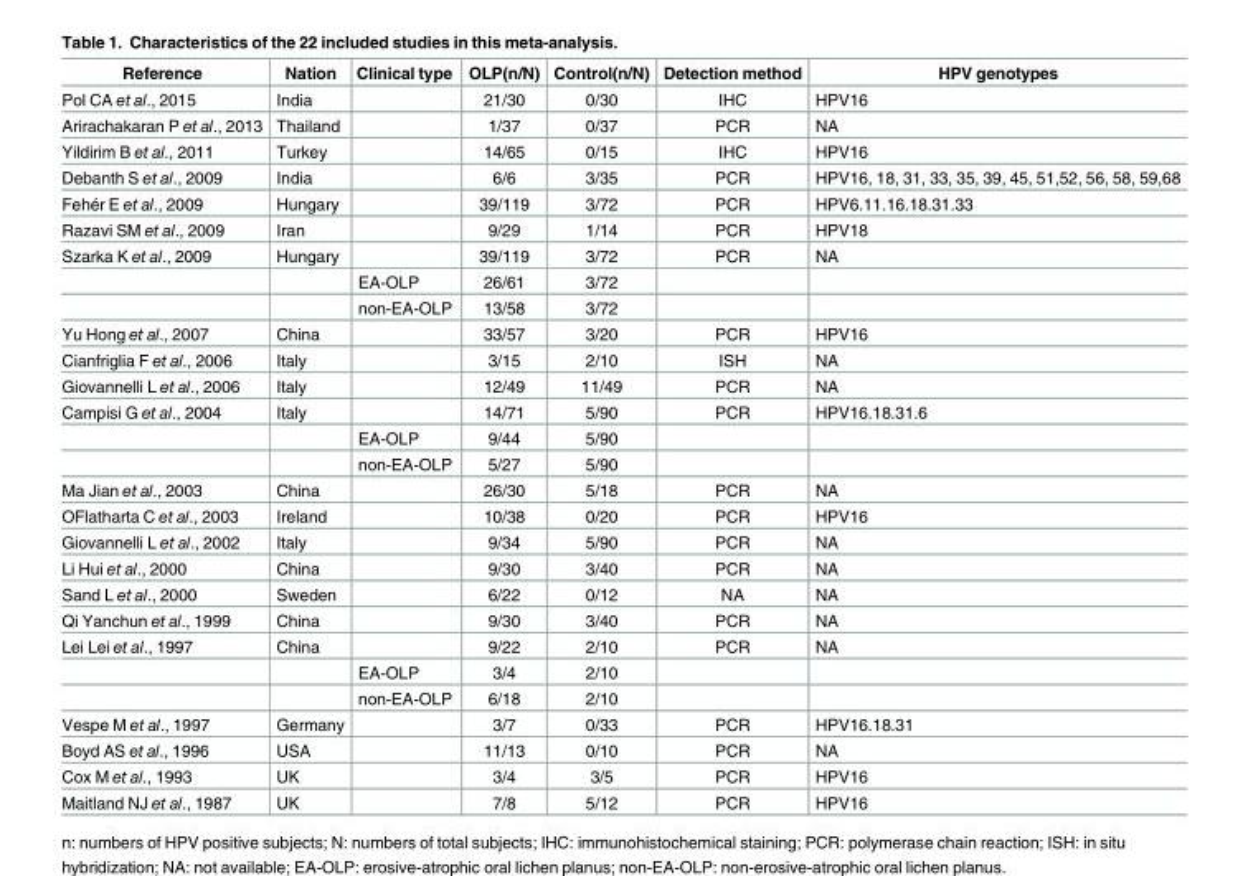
<table><thead><tr><td>Reference</td><td>Nation</td><td>Clinical type</td><td>OLP(n/N)</td><td>Control(n/N)</td><td>Detection method</td><td>HPV genotypes</td></tr></thead><tbody><tr><td>Pol CA et al., 2015</td><td>India</td><td></td><td>21/30</td><td>0/30</td><td>IHC</td><td>HPV16</td></tr><tr><td>Arirachakaran P et al., 2013</td><td>Thailand</td><td></td><td>1/37</td><td>0/37</td><td>PCR</td><td>NA</td></tr><tr><td>Yildirim B et al., 2011</td><td>Turkey</td><td></td><td>14/65</td><td>0/15</td><td>IHC</td><td>HPV16</td></tr><tr><td>Debanth S et al., 2009</td><td>India</td><td></td><td>6/6</td><td>3/35</td><td>PCR</td><td>HPV16, 18, 31, 33, 35, 39, 45, 51,52, 56, 58, 59,68</td></tr><tr><td>Fehér E et al., 2009</td><td>Hungary</td><td></td><td>39/119</td><td>3/72</td><td>PCR</td><td>HPV6.11.16.18.31.33</td></tr><tr><td>Razavi SM et al., 2009</td><td>Iran</td><td></td><td>9/29</td><td>1/14</td><td>PCR</td><td>HPV18</td></tr><tr><td rowspan="3">Szarka K et al., 2009</td><td>Hungary</td><td></td><td>39/119</td><td>3/72</td><td>PCR</td><td>NA</td></tr><tr><td></td><td>EA-OLP</td><td>26/61</td><td>3/72</td><td></td><td></td></tr><tr><td></td><td>non-EA-OLP</td><td>13/58</td><td>3/72</td><td></td><td></td></tr><tr><td>Yu Hong et al., 2007</td><td>China</td><td></td><td>33/57</td><td>3/20</td><td>PCR</td><td>HPV16</td></tr><tr><td>Cianfriglia F et al., 2006</td><td>Italy</td><td></td><td>3/15</td><td>2/10</td><td>ISH</td><td>NA</td></tr><tr><td>Giovannelli L et al., 2006</td><td>Italy</td><td></td><td>12/49</td><td>11/49</td><td>PCR</td><td>NA</td></tr><tr><td rowspan="3">Campisi G et al., 2004</td><td>Italy</td><td></td><td>14/71</td><td>5/90</td><td>PCR</td><td>HPV16.18.31.6</td></tr><tr><td></td><td>EA-OLP</td><td>9/44</td><td>5/90</td><td></td><td></td></tr><tr><td></td><td>non-EA-OLP</td><td>5/27</td><td>5/90</td><td></td><td></td></tr><tr><td>Ma Jian et al., 2003</td><td>China</td><td></td><td>26/30</td><td>5/18</td><td>PCR</td><td>NA</td></tr><tr><td>OFlatharta C et al., 2003</td><td>Ireland</td><td></td><td>10/38</td><td>0/20</td><td>PCR</td><td>HPV16</td></tr><tr><td>Giovannelli L et al., 2002</td><td>Italy</td><td></td><td>9/34</td><td>5/90</td><td>PCR</td><td>NA</td></tr><tr><td>Li Hui et al., 2000</td><td>China</td><td></td><td>9/30</td><td>3/40</td><td>PCR</td><td>NA</td></tr><tr><td>Sand L et al., 2000</td><td>Sweden</td><td></td><td>6/22</td><td>0/12</td><td>NA</td><td>NA</td></tr><tr><td>Qi Yanchun et al., 1999</td><td>China</td><td></td><td>9/30</td><td>3/40</td><td>PCR</td><td>NA</td></tr><tr><td rowspan="3">Lei Lei et al., 1997</td><td>China</td><td></td><td>9/22</td><td>2/10</td><td>PCR</td><td>NA</td></tr><tr><td></td><td>EA-OLP</td><td>3/4</td><td>2/10</td><td></td><td></td></tr><tr><td></td><td>non-EA-OLP</td><td>6/18</td><td>2/10</td><td></td><td></td></tr><tr><td>Vespe M et al., 1997</td><td>Germany</td><td></td><td>3/7</td><td>0/33</td><td>PCR</td><td>HPV16.18.31</td></tr><tr><td>Boyd AS et al., 1996</td><td>USA</td><td></td><td>11/13</td><td>0/10</td><td>PCR</td><td>NA</td></tr><tr><td>Cox M et al., 1993</td><td>UK</td><td></td><td>3/4</td><td>3/5</td><td>PCR</td><td>HPV16</td></tr><tr><td>Maitland NJ et al., 1987</td><td>UK</td><td></td><td>7/8</td><td>5/12</td><td>PCR</td><td>HPV16</td></tr></tbody></table>